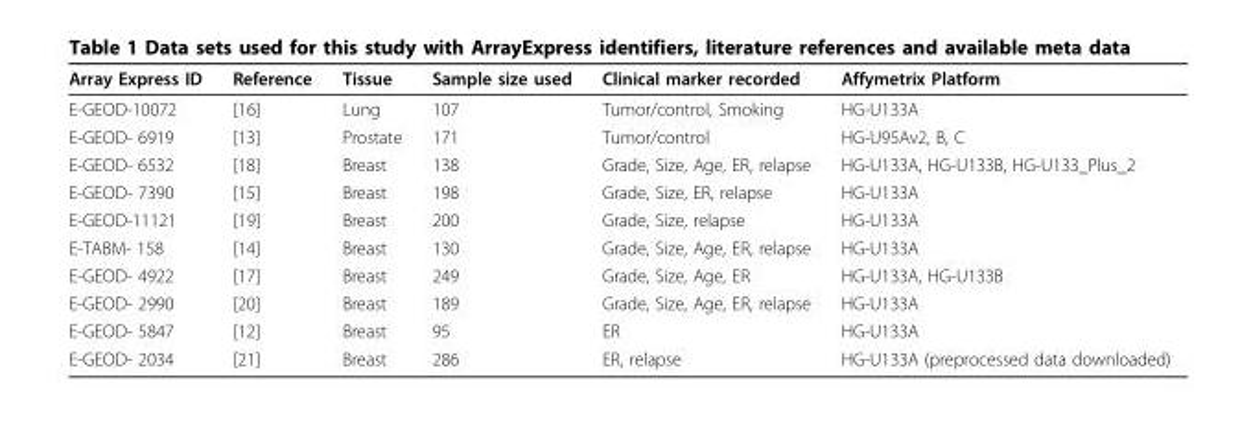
<table><thead><tr><td>Array Express ID</td><td>Reference</td><td>Tissue</td><td>Sample size used</td><td>Clinical marker recorded</td><td>Affymetrix Platform</td></tr></thead><tbody><tr><td>E-GEOD-10072</td><td>[16]</td><td>Lung</td><td>107</td><td>Tumor/control, Smoking</td><td>HG-U133A</td></tr><tr><td>E-GEOD- 6919</td><td>[13]</td><td>Prostate</td><td>171</td><td>Tumor/control</td><td>HG-U95Av2, B, C</td></tr><tr><td>E-GEOD- 6532</td><td>[18]</td><td>Breast</td><td>138</td><td>Grade, Size, Age, ER, relapse</td><td>HG-U133A, HG-U133B, HG-U133_Plus_2</td></tr><tr><td>E-GEOD- 7390</td><td>[15]</td><td>Breast</td><td>198</td><td>Grade, Size, ER, relapse</td><td>HG-U133A</td></tr><tr><td>E-GEOD-11121</td><td>[19]</td><td>Breast</td><td>200</td><td>Grade, Size, relapse</td><td>HG-U133A</td></tr><tr><td>E-TABM- 158</td><td>[14]</td><td>Breast</td><td>130</td><td>Grade, Size, Age, ER, relapse</td><td>HG-U133A</td></tr><tr><td>E-GEOD- 4922</td><td>[17]</td><td>Breast</td><td>249</td><td>Grade, Size, Age, ER</td><td>HG-U133A, HG-U133B</td></tr><tr><td>E-GEOD- 2990</td><td>[20]</td><td>Breast</td><td>189</td><td>Grade, Size, Age, ER, relapse</td><td>HG-U133A</td></tr><tr><td>E-GEOD- 5847</td><td>[12]</td><td>Breast</td><td>95</td><td>ER</td><td>HG-U133A</td></tr><tr><td>E-GEOD- 2034</td><td>[21]</td><td>Breast</td><td>286</td><td>ER, relapse</td><td>HG-U133A (preprocessed data downloaded)</td></tr></tbody></table>